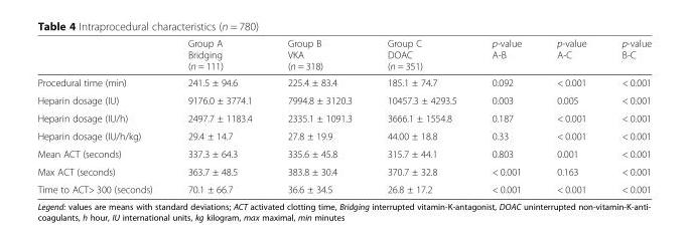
<table><thead><tr><td></td><td>Group A Bridging (n = 111)</td><td>Group B VKA (n = 318)</td><td>Group C DOAC (n = 351)</td><td>p-value A-B</td><td>p-value A-C</td><td>p-value B-C</td></tr></thead><tbody><tr><td>Procedural time (min)</td><td>241.5 ± 94.6</td><td>225.4 ± 83.4</td><td>185.1 ± 74.7</td><td>0.092</td><td>&lt; 0.001</td><td>&lt; 0.001</td></tr><tr><td>Heparin dosage (IU)</td><td>9176.0 ± 3774.1</td><td>7994.8 ± 3120.3</td><td>10457.3 ± 4293.5</td><td>0.003</td><td>0.005</td><td>&lt; 0.001</td></tr><tr><td>Heparin dosage (IU/h)</td><td>2497.7 ± 1183.4</td><td>2335.1 ± 1091.3</td><td>3666.1 ± 1554.8</td><td>0.187</td><td>&lt; 0.001</td><td>&lt; 0.001</td></tr><tr><td>Heparin dosage (IU/h/kg)</td><td>29.4 ± 14.7</td><td>27.8 ± 19.9</td><td>44.00 ± 18.8</td><td>0.33</td><td>&lt; 0.001</td><td>&lt; 0.001</td></tr><tr><td>Mean ACT (seconds)</td><td>337.3 ± 64.3</td><td>335.6 ± 45.8</td><td>315.7 ± 44.1</td><td>0.803</td><td>0.001</td><td>&lt; 0.001</td></tr><tr><td>Max ACT (seconds)</td><td>363.7 ± 48.5</td><td>383.8 ± 30.4</td><td>370.7 ± 32.8</td><td>&lt; 0.001</td><td>0.163</td><td>&lt; 0.001</td></tr><tr><td>Time to ACT&gt; 300 (seconds)</td><td>70.1 ± 66.7</td><td>36.6 ± 34.5</td><td>26.8 ± 17.2</td><td>&lt; 0.001</td><td>&lt; 0.001</td><td>&lt; 0.001</td></tr></tbody></table>